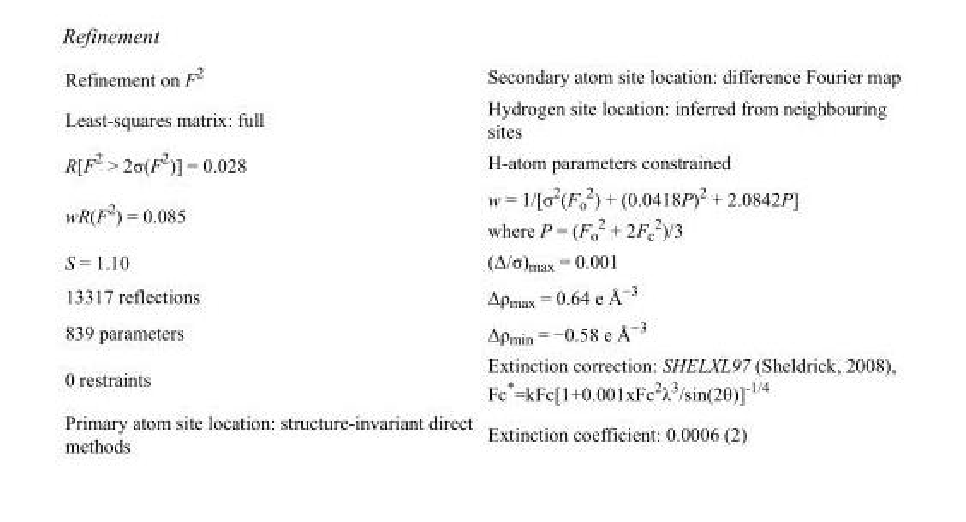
<table><tbody><tr><td>Refinement on F<sup>2</sup></td><td>Secondary atom site location: difference Fourier map</td></tr><tr><td>Least-squares matrix: full</td><td>Hydrogen site location: inferred from neighbouring sites</td></tr><tr><td>R[F<sup>2</sup> &gt; 2σ(F<sup>2</sup>)] = 0.028</td><td>H-atom parameters constrained</td></tr><tr><td>wR(F<sup>2</sup>) = 0.085</td><td>w = 1/[σ<sup>2</sup>(F<sub>o</sub> <sup>2</sup>) + (0.0418P)<sup>2</sup> + 2.0842P] where P = (F<sub>o</sub> <sup>2</sup> + 2F<sub>c</sub> <sup>2</sup>)/3</td></tr><tr><td>S = 1.10</td><td>(Δ/σ)<sub>max</sub> = 0.001</td></tr><tr><td>13317 reflections</td><td>Δρ<sub>max</sub> = 0.64 e Å<sup>−3</sup></td></tr><tr><td>839 parameters</td><td>Δρ<sub>min</sub> = −0.58 e Å<sup>−3</sup></td></tr><tr><td>0 restraints</td><td>Extinction correction: SHELXL97 (Sheldrick, 2008), Fc*=kFc[1+0.001xFc<sup>2</sup>λ<sup>3</sup>/sin(2θ)]<sup>-1/4</sup></td></tr><tr><td>Primary atom site location: structure-invariant direct methods</td><td>Extinction coefficient: 0.0006 (2)</td></tr></tbody></table>